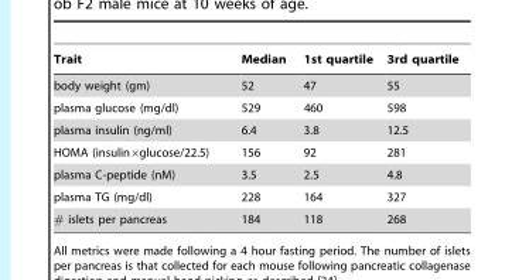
<table><thead><tr><td>Trait</td><td>Median</td><td>1st quartile</td><td>3rd quartile</td></tr></thead><tbody><tr><td>body weight (gm)</td><td>52</td><td>47</td><td>55</td></tr><tr><td>plasma glucose (mg/dl)</td><td>529</td><td>460</td><td>598</td></tr><tr><td>plasma insulin (ng/ml)</td><td>6.4</td><td>3.8</td><td>12.5</td></tr><tr><td>HOMA (insulin×glucose/22.5)</td><td>156</td><td>92</td><td>281</td></tr><tr><td>plasma C-peptide (nM)</td><td>3.5</td><td>2.5</td><td>4.8</td></tr><tr><td>plasma TG (mg/dl)</td><td>228</td><td>164</td><td>327</td></tr><tr><td># islets per pancreas</td><td>184</td><td>118</td><td>268</td></tr></tbody></table>